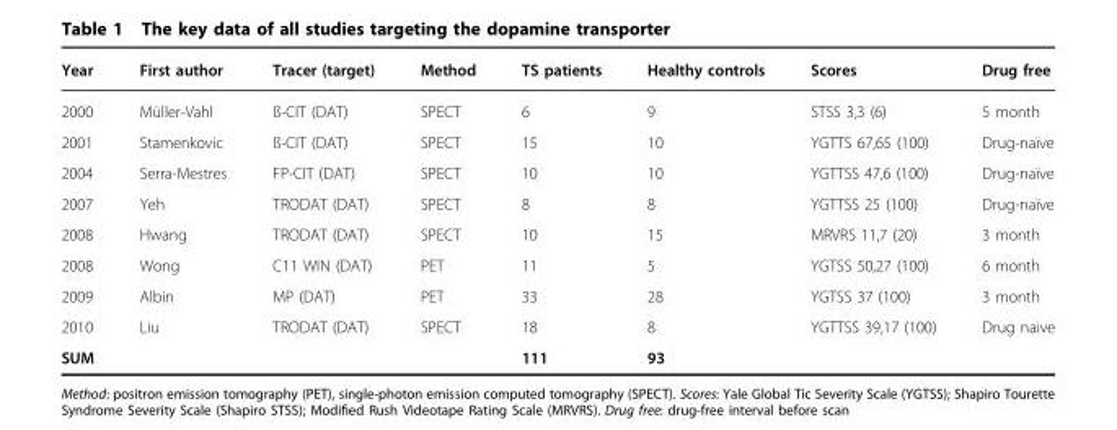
<table><thead><tr><td>Year</td><td>First author</td><td>Tracer (target)</td><td>Method</td><td>TS patients</td><td>Healthy controls</td><td>Scores</td><td>Drug free</td></tr></thead><tbody><tr><td>2000</td><td>Müller-Vahl</td><td>ß-CIT (DAT)</td><td>SPECT</td><td>6</td><td>9</td><td>STSS 3,3 (6)</td><td>5 month</td></tr><tr><td>2001</td><td>Stamenkovic</td><td>ß-CIT (DAT)</td><td>SPECT</td><td>15</td><td>10</td><td>YGTTS 67,65 (100)</td><td>Drug-naïve</td></tr><tr><td>2004</td><td>Serra-Mestres</td><td>FP-CIT (DAT)</td><td>SPECT</td><td>10</td><td>10</td><td>YGTTSS 47,6 (100)</td><td>Drug-naïve</td></tr><tr><td>2007</td><td>Yeh</td><td>TRODAT (DAT)</td><td>SPECT</td><td>8</td><td>8</td><td>YGTTSS 25 (100)</td><td>Drug-naïve</td></tr><tr><td>2008</td><td>Hwang</td><td>TRODAT (DAT)</td><td>SPECT</td><td>10</td><td>15</td><td>MRVRS 11,7 (20)</td><td>3 month</td></tr><tr><td>2008</td><td>Wong</td><td>C11 WIN (DAT)</td><td>PET</td><td>11</td><td>5</td><td>YGTSS 50,27 (100)</td><td>6 month</td></tr><tr><td>2009</td><td>Albin</td><td>MP (DAT)</td><td>PET</td><td>33</td><td>28</td><td>YGTSS 37 (100)</td><td>3 month</td></tr><tr><td>2010</td><td>Liu</td><td>TRODAT (DAT)</td><td>SPECT</td><td>18</td><td>8</td><td>YGTTSS 39,17 (100)</td><td>Drug naive</td></tr><tr><td>SUM</td><td></td><td></td><td></td><td>111</td><td>93</td><td></td><td></td></tr></tbody></table>